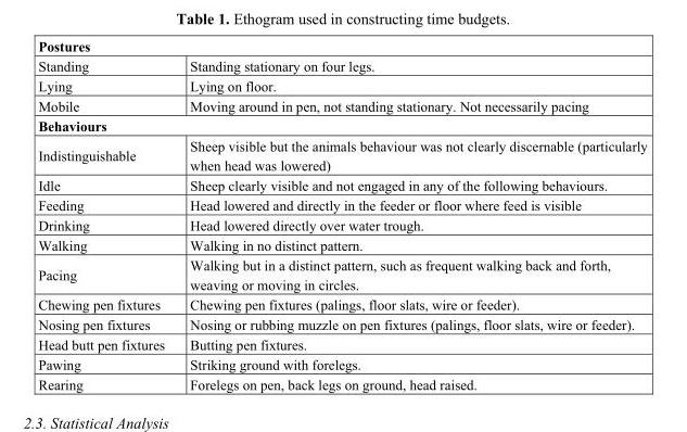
<table><tbody><tr><td colspan="2">Postures</td></tr><tr><td>Standing</td><td>Standing stationary on four legs.</td></tr><tr><td>Lying</td><td>Lying on floor.</td></tr><tr><td>Mobile</td><td>Moving around in pen, not standing stationary. Not necessarily pacing</td></tr><tr><td colspan="2">Behaviours</td></tr><tr><td>Indistinguishable</td><td>Sheep visible but the animals behaviour was not clearly discernable (particularly when head was lowered)</td></tr><tr><td>Idle</td><td>Sheep clearly visible and not engaged in any of the following behaviours.</td></tr><tr><td>Feeding</td><td>Head lowered and directly in the feeder or floor where feed is visible</td></tr><tr><td>Drinking</td><td>Head lowered directly over water trough.</td></tr><tr><td>Walking</td><td>Walking in no distinct pattern.</td></tr><tr><td>Pacing</td><td>Walking but in a distinct pattern, such as frequent walking back and forth, weaving or moving in circles.</td></tr><tr><td>Chewing pen fixtures</td><td>Chewing pen fixtures (palings, floor slats, wire or feeder).</td></tr><tr><td>Nosing pen fixtures</td><td>Nosing or rubbing muzzle on pen fixtures (palings, floor slats, wire or feeder).</td></tr><tr><td>Head butt pen fixtures</td><td>Butting pen fixtures.</td></tr><tr><td>Pawing</td><td>Striking ground with forelegs.</td></tr><tr><td>Rearing</td><td>Forelegs on pen, back legs on ground, head raised.</td></tr></tbody></table>